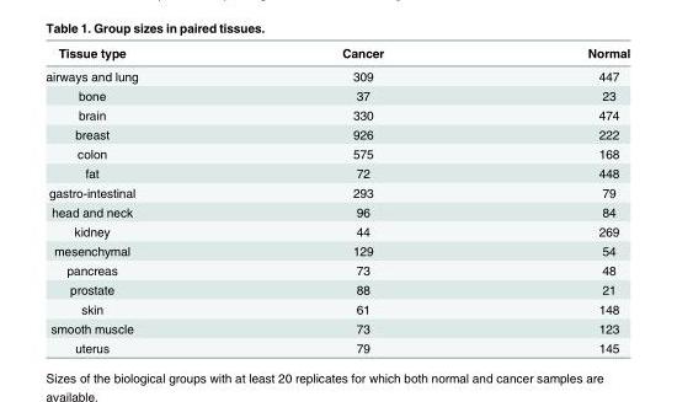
<table><thead><tr><td>Tissue type</td><td>Cancer</td><td>Normal</td></tr></thead><tbody><tr><td>airways and lung</td><td>309</td><td>447</td></tr><tr><td>bone</td><td>37</td><td>23</td></tr><tr><td>brain</td><td>330</td><td>474</td></tr><tr><td>breast</td><td>926</td><td>222</td></tr><tr><td>colon</td><td>575</td><td>168</td></tr><tr><td>fat</td><td>72</td><td>448</td></tr><tr><td>gastro-intestinal</td><td>293</td><td>79</td></tr><tr><td>head and neck</td><td>96</td><td>84</td></tr><tr><td>kidney</td><td>44</td><td>269</td></tr><tr><td>mesenchymal</td><td>129</td><td>54</td></tr><tr><td>pancreas</td><td>73</td><td>48</td></tr><tr><td>prostate</td><td>88</td><td>21</td></tr><tr><td>skin</td><td>61</td><td>148</td></tr><tr><td>smooth muscle</td><td>73</td><td>123</td></tr><tr><td>uterus</td><td>79</td><td>145</td></tr></tbody></table>